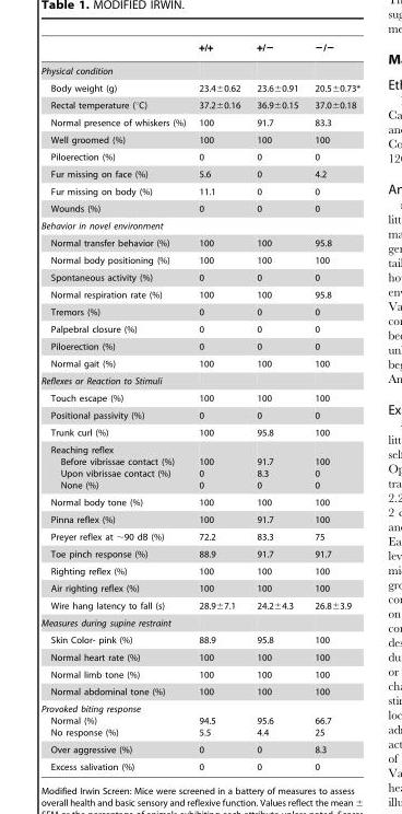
<table><thead><tr><td></td><td>+/+</td><td>+/−</td><td>−/−</td></tr></thead><tbody><tr><td colspan="4">Physical condition</td></tr><tr><td>Body weight (g)</td><td>23.4±0.62</td><td>23.6±0.91</td><td>20.5±0.73*</td></tr><tr><td>Rectal temperature (°C)</td><td>37.2±0.16</td><td>36.9±0.15</td><td>37.0±0.18</td></tr><tr><td>Normal presence of whiskers (%)</td><td>100</td><td>91.7</td><td>83.3</td></tr><tr><td>Well groomed (%)</td><td>100</td><td>100</td><td>100</td></tr><tr><td>Piloerection (%)</td><td>0</td><td>0</td><td>0</td></tr><tr><td>Fur missing on face (%)</td><td>5.6</td><td>0</td><td>4.2</td></tr><tr><td>Fur missing on body (%)</td><td>11.1</td><td>0</td><td>0</td></tr><tr><td>Wounds (%)</td><td>0</td><td>0</td><td>0</td></tr><tr><td colspan="4">Behavior in novel environment</td></tr><tr><td>Normal transfer behavior (%)</td><td>100</td><td>100</td><td>95.8</td></tr><tr><td>Normal body positioning (%)</td><td>100</td><td>100</td><td>100</td></tr><tr><td>Spontaneous activity (%)</td><td>0</td><td>0</td><td>0</td></tr><tr><td>Normal respiration rate (%)</td><td>100</td><td>100</td><td>95.8</td></tr><tr><td>Tremors (%)</td><td>0</td><td>0</td><td>0</td></tr><tr><td>Palpebral closure (%)</td><td>0</td><td>0</td><td>0</td></tr><tr><td>Piloerection (%)</td><td>0</td><td>0</td><td>0</td></tr><tr><td>Normal gait (%)</td><td>100</td><td>100</td><td>100</td></tr><tr><td colspan="4">Reflexes or Reaction to Stimuli</td></tr><tr><td>Touch escape (%)</td><td>100</td><td>100</td><td>100</td></tr><tr><td>Positional passivity (%)</td><td>0</td><td>0</td><td>0</td></tr><tr><td>Trunk curl (%)</td><td>100</td><td>95.8</td><td>100</td></tr><tr><td>Reaching reflex Before vibrissae contact (%) Upon vibrissae contact (%) None (%)</td><td>100 0 0</td><td>91.7 8.3 0</td><td>100 0 0</td></tr><tr><td>Normal body tone (%)</td><td>100</td><td>100</td><td>100</td></tr><tr><td>Pinna reflex (%)</td><td>100</td><td>91.7</td><td>100</td></tr><tr><td>Preyer reflex at ∼90 dB (%)</td><td>72.2</td><td>83.3</td><td>75</td></tr><tr><td>Toe pinch response (%)</td><td>88.9</td><td>91.7</td><td>91.7</td></tr><tr><td>Righting reflex (%)</td><td>100</td><td>100</td><td>100</td></tr><tr><td>Air righting reflex (%)</td><td>100</td><td>100</td><td>100</td></tr><tr><td>Wire hang latency to fall (s)</td><td>28.9±7.1</td><td>24.2±4.3</td><td>26.8±3.9</td></tr><tr><td colspan="4">Measures during supine restraint</td></tr><tr><td>Skin Color- pink (%)</td><td>88.9</td><td>95.8</td><td>100</td></tr><tr><td>Normal heart rate (%)</td><td>100</td><td>100</td><td>100</td></tr><tr><td>Normal limb tone (%)</td><td>100</td><td>100</td><td>100</td></tr><tr><td>Normal abdominal tone (%)</td><td>100</td><td>100</td><td>100</td></tr><tr><td>Provoked biting response Normal (%) No response (%)</td><td>94.5 5.5</td><td>95.6 4.4</td><td>66.7 25</td></tr><tr><td>Over aggressive (%)</td><td>0</td><td>0</td><td>8.3</td></tr><tr><td>Excess salivation (%)</td><td>0</td><td>0</td><td>0</td></tr></tbody></table>